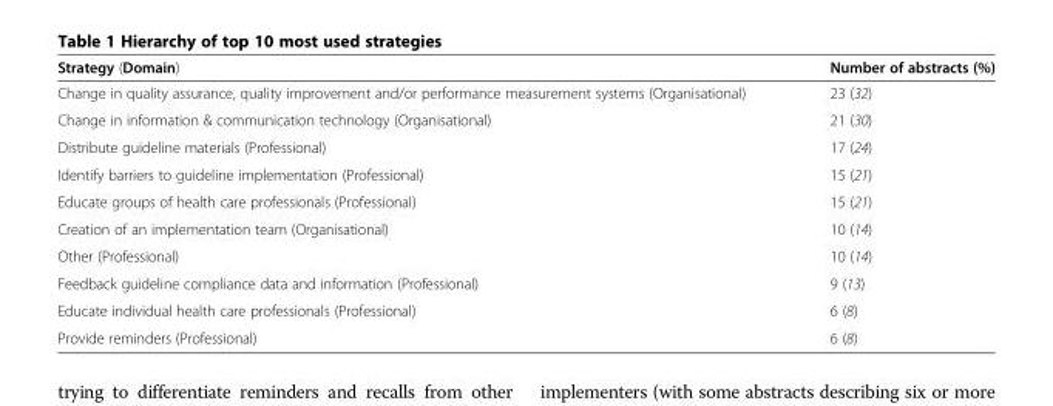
<table><thead><tr><td>Strategy (Domain)</td><td>Number of abstracts (%)</td></tr></thead><tbody><tr><td>Change in quality assurance, quality improvement and/or performance measurement systems (Organisational)</td><td>23 (32)</td></tr><tr><td>Change in information &amp; communication technology (Organisational)</td><td>21 (30)</td></tr><tr><td>Distribute guideline materials (Professional)</td><td>17 (24)</td></tr><tr><td>Identify barriers to guideline implementation (Professional)</td><td>15 (21)</td></tr><tr><td>Educate groups of health care professionals (Professional)</td><td>15 (21)</td></tr><tr><td>Creation of an implementation team (Organisational)</td><td>10 (14)</td></tr><tr><td>Other (Professional)</td><td>10 (14)</td></tr><tr><td>Feedback guideline compliance data and information (Professional)</td><td>9 (13)</td></tr><tr><td>Educate individual health care professionals (Professional)</td><td>6 (8)</td></tr><tr><td>Provide reminders (Professional)</td><td>6 (8)</td></tr></tbody></table>